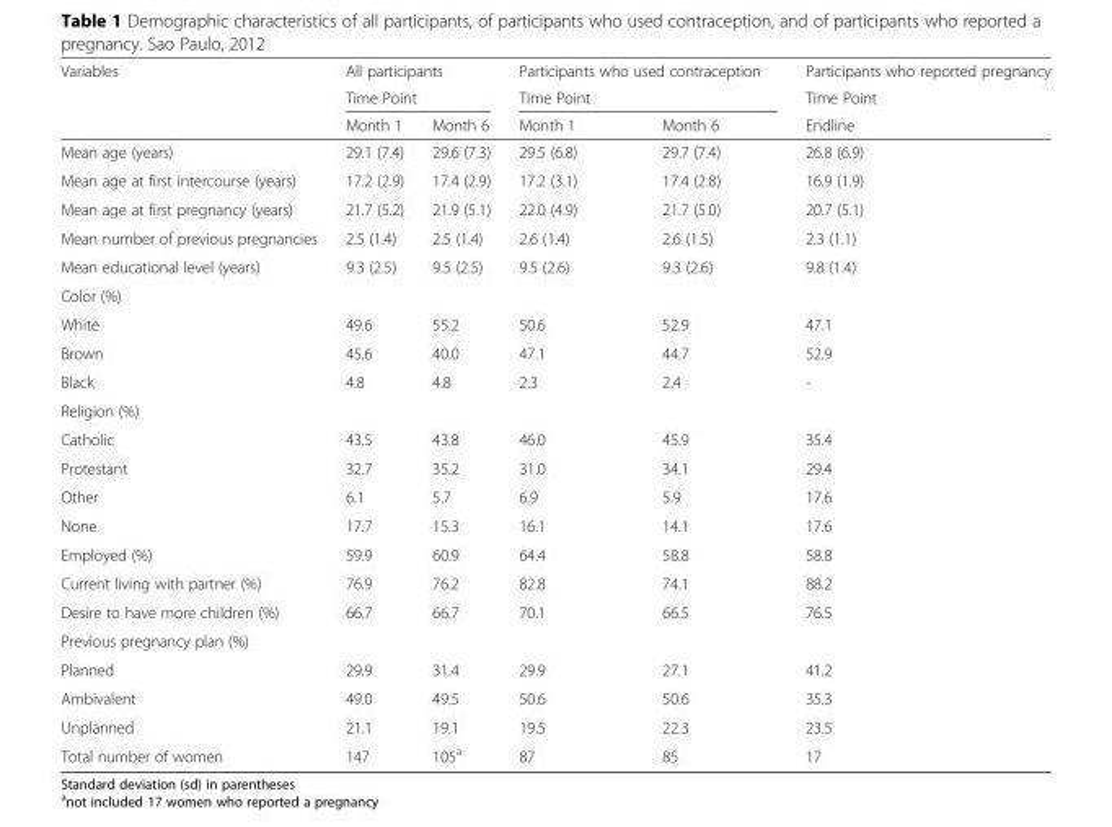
<table><thead><tr><td rowspan="3">Variables</td><td rowspan="2" colspan="2">All participants Time Point</td><td rowspan="2" colspan="2">Participants who used contraception Time Point</td><td rowspan="3">Participants who reported pregnancy Time Point Endline</td></tr><tr></tr><tr><td>Month 1</td><td>Month 6</td><td>Month 1</td><td>Month 6</td></tr></thead><tbody><tr><td>Mean age (years)</td><td>29.1 (7.4)</td><td>29.6 (7.3)</td><td>29.5 (6.8)</td><td>29.7 (7.4)</td><td>26.8 (6.9)</td></tr><tr><td>Mean age at first intercourse (years)</td><td>17.2 (2.9)</td><td>17.4 (2.9)</td><td>17.2 (3.1)</td><td>17.4 (2.8)</td><td>16.9 (1.9)</td></tr><tr><td>Mean age at first pregnancy (years)</td><td>21.7 (5.2)</td><td>21.9 (5.1)</td><td>22.0 (4.9)</td><td>21.7 (5.0)</td><td>20.7 (5.1)</td></tr><tr><td>Mean number of previous pregnancies</td><td>2.5 (1.4)</td><td>2.5 (1.4)</td><td>2.6 (1.4)</td><td>2.6 (1.5)</td><td>2.3 (1.1)</td></tr><tr><td>Mean educational level (years)</td><td>9.3 (2.5)</td><td>9.5 (2.5)</td><td>9.5 (2.6)</td><td>9.3 (2.6)</td><td>9.8 (1.4)</td></tr><tr><td colspan="6">Color (%)</td></tr><tr><td>White</td><td>49.6</td><td>55.2</td><td>50.6</td><td>52.9</td><td>47.1</td></tr><tr><td>Brown</td><td>45.6</td><td>40.0</td><td>47.1</td><td>44.7</td><td>52.9</td></tr><tr><td>Black</td><td>4.8</td><td>4.8</td><td>2.3</td><td>2.4</td><td>-</td></tr><tr><td colspan="6">Religion (%)</td></tr><tr><td>Catholic</td><td>43.5</td><td>43.8</td><td>46.0</td><td>45.9</td><td>35.4</td></tr><tr><td>Protestant</td><td>32.7</td><td>35.2</td><td>31.0</td><td>34.1</td><td>29.4</td></tr><tr><td>Other</td><td>6.1</td><td>5.7</td><td>6.9</td><td>5.9</td><td>17.6</td></tr><tr><td>None</td><td>17.7</td><td>15.3</td><td>16.1</td><td>14.1</td><td>17.6</td></tr><tr><td>Employed (%)</td><td>59.9</td><td>60.9</td><td>64.4</td><td>58.8</td><td>58.8</td></tr><tr><td>Current living with partner (%)</td><td>76.9</td><td>76.2</td><td>82.8</td><td>74.1</td><td>88.2</td></tr><tr><td>Desire to have more children (%)</td><td>66.7</td><td>66.7</td><td>70.1</td><td>66.5</td><td>76.5</td></tr><tr><td colspan="6">Previous pregnancy plan (%)</td></tr><tr><td>Planned</td><td>29.9</td><td>31.4</td><td>29.9</td><td>27.1</td><td>41.2</td></tr><tr><td>Ambivalent</td><td>49.0</td><td>49.5</td><td>50.6</td><td>50.6</td><td>35.3</td></tr><tr><td>Unplanned</td><td>21.1</td><td>19.1</td><td>19.5</td><td>22.3</td><td>23.5</td></tr><tr><td>Total number of women</td><td>147</td><td>105<sup>a</sup></td><td>87</td><td>85</td><td>17</td></tr></tbody></table>